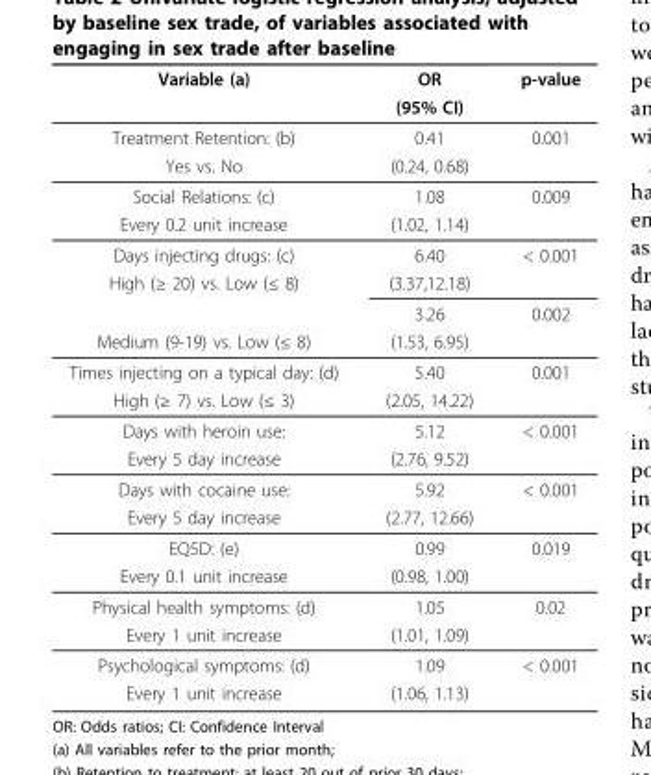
<table><thead><tr><td rowspan="2">Variable (a)</td><td rowspan="2">OR (95% CI)</td><td rowspan="2">p-value</td></tr><tr></tr></thead><tbody><tr><td>Treatment Retention: (b)</td><td>0.41</td><td>0.001</td></tr><tr><td>Yes vs. No</td><td>(0.24, 0.68)</td><td></td></tr><tr><td>Social Relations: (c)</td><td>1.08</td><td>0.009</td></tr><tr><td>Every 0.2 unit increase</td><td>(1.02, 1.14)</td><td></td></tr><tr><td>Days injecting drugs: (c)</td><td>6.40</td><td>&lt; 0.001</td></tr><tr><td rowspan="2">High (≥ 20) vs. Low (≤ 8)</td><td>(3.37,12.18)</td><td></td></tr><tr><td>3.26</td><td>0.002</td></tr><tr><td>Medium (9-19) vs. Low (≤ 8)</td><td>(1.53, 6.95)</td><td></td></tr><tr><td>Times injecting on a typical day: (d)</td><td>5.40</td><td>0.001</td></tr><tr><td>High (≥ 7) vs. Low (≤ 3)</td><td>(2.05, 14.22)</td><td></td></tr><tr><td>Days with heroin use:</td><td>5.12</td><td>&lt; 0.001</td></tr><tr><td>Every 5 day increase</td><td>(2.76, 9.52)</td><td></td></tr><tr><td>Days with cocaine use:</td><td>5.92</td><td>&lt; 0.001</td></tr><tr><td>Every 5 day increase</td><td>(2.77, 12.66)</td><td></td></tr><tr><td>EQ5D: (e)</td><td>0.99</td><td>0.019</td></tr><tr><td>Every 0.1 unit increase</td><td>(0.98, 1.00)</td><td></td></tr><tr><td>Physical health symptoms: (d)</td><td>1.05</td><td>0.02</td></tr><tr><td>Every 1 unit increase</td><td>(1.01, 1.09)</td><td></td></tr><tr><td>Psychological symptoms: (d)</td><td>1.09</td><td>&lt; 0.001</td></tr><tr><td>Every 1 unit increase</td><td>(1.06, 1.13)</td><td></td></tr></tbody></table>